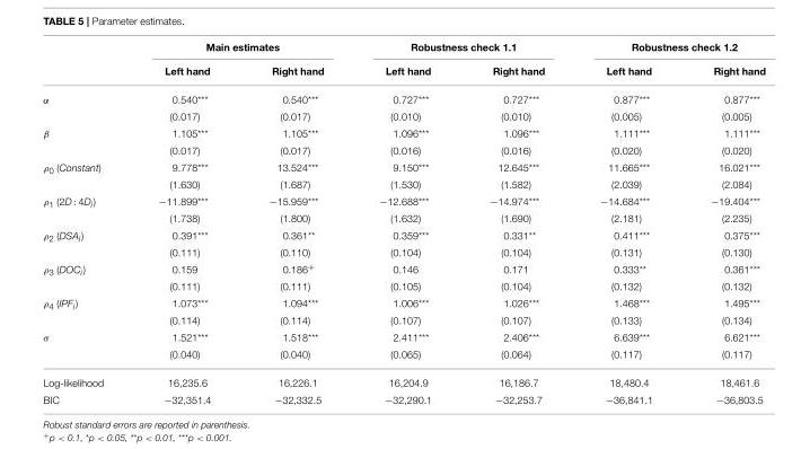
<table><thead><tr><td rowspan="2"></td><td colspan="2">Main estimates</td><td colspan="2">Robustness check 1.1</td><td colspan="2">Robustness check 1.2</td></tr><tr><td>Left hand</td><td>Right hand</td><td>Left hand</td><td>Right hand</td><td>Left hand</td><td>Right hand</td></tr></thead><tbody><tr><td rowspan="2">α</td><td>0.540***</td><td>0.540***</td><td>0.727***</td><td>0.727***</td><td>0.877***</td><td>0.877***</td></tr><tr><td>(0.017)</td><td>(0.017)</td><td>(0.010)</td><td>(0.010)</td><td>(0.005)</td><td>(0.005)</td></tr><tr><td rowspan="2">β</td><td>1.105***</td><td>1.105***</td><td>1.096***</td><td>1.096***</td><td>1.111***</td><td>1.111***</td></tr><tr><td>(0.017)</td><td>(0.017)</td><td>(0.016)</td><td>(0.016)</td><td>(0.020)</td><td>(0.020)</td></tr><tr><td rowspan="2">ρ<sub>0</sub> (Constant)</td><td>9.778***</td><td>13.524***</td><td>9.150***</td><td>12.645***</td><td>11.665***</td><td>16.021***</td></tr><tr><td>(1.630)</td><td>(1.687)</td><td>(1.530)</td><td>(1.582)</td><td>(2.039)</td><td>(2.084)</td></tr><tr><td rowspan="2">ρ<sub>1</sub> (2D : 4D<sub>i</sub>)</td><td>−11.899***</td><td>−15.959***</td><td>−12.688***</td><td>−14.974***</td><td>−14.684***</td><td>−19.404***</td></tr><tr><td>(1.738)</td><td>(1.800)</td><td>(1.632)</td><td>(1.690)</td><td>(2.181)</td><td>(2.235)</td></tr><tr><td rowspan="2">ρ<sub>2</sub> (DSA<sub>i</sub>)</td><td>0.391***</td><td>0.361**</td><td>0.359***</td><td>0.331**</td><td>0.411***</td><td>0.375***</td></tr><tr><td>(0.111)</td><td>(0.110)</td><td>(0.104)</td><td>(0.104)</td><td>(0.131)</td><td>(0.130)</td></tr><tr><td rowspan="2">ρ<sub>3</sub> (DOC<sub>i</sub>)</td><td>0.159</td><td>0.186<sup>+</sup></td><td>0.146</td><td>0.171</td><td>0.333**</td><td>0.361***</td></tr><tr><td>(0.111)</td><td>(0.111)</td><td>(0.105)</td><td>(0.104)</td><td>(0.132)</td><td>(0.132)</td></tr><tr><td rowspan="2">ρ<sub>4</sub> (IPF<sub>i</sub>)</td><td>1.073***</td><td>1.094***</td><td>1.006***</td><td>1.026***</td><td>1.468***</td><td>1.495***</td></tr><tr><td>(0.114)</td><td>(0.114)</td><td>(0.107)</td><td>(0.107)</td><td>(0.133)</td><td>(0.134)</td></tr><tr><td rowspan="2">σ</td><td>1.521***</td><td>1.518***</td><td>2.411***</td><td>2.406***</td><td>6.639***</td><td>6.621***</td></tr><tr><td>(0.040)</td><td>(0.040)</td><td>(0.065)</td><td>(0.064)</td><td>(0.117)</td><td>(0.117)</td></tr><tr><td>Log-likelihood</td><td>16,235.6</td><td>16,226.1</td><td>16,204.9</td><td>16,186.7</td><td>18,480.4</td><td>18,461.6</td></tr><tr><td>BIC</td><td>−32,351.4</td><td>−32,332.5</td><td>−32,290.1</td><td>−32,253.7</td><td>−36,841.1</td><td>−36,803.5</td></tr></tbody></table>